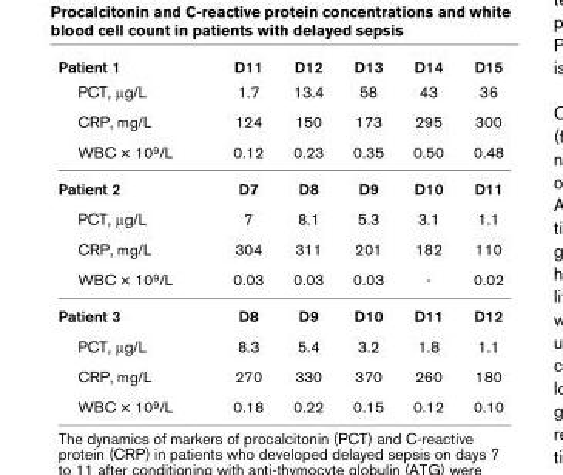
<table><thead><tr><td rowspan="4">Patient 1 PCT, μg/L CRP, mg/L WBC × 109/L</td><td rowspan="4">D11 1.7 124 0.12</td><td rowspan="4">D12 13.4 150 0.23</td><td rowspan="4">D13 58 173 0.35</td><td rowspan="4">D14 43 295 0.50</td><td rowspan="4">D15 36 300 0.48</td></tr><tr></tr><tr></tr><tr></tr></thead><tbody><tr><td>Patient 2</td><td>D7</td><td>D8</td><td>D9</td><td>D10</td><td>D11</td></tr><tr><td>PCT, μg/L</td><td>7</td><td>8.1</td><td>5.3</td><td>3.1</td><td>1.1</td></tr><tr><td>CRP, mg/L</td><td>304</td><td>311</td><td>201</td><td>182</td><td>110</td></tr><tr><td>WBC × 10<sup>9</sup>/L</td><td>0.03</td><td>0.03</td><td>0.03</td><td>-</td><td>0.02</td></tr><tr><td>Patient 3</td><td>D8</td><td>D9</td><td>D10</td><td>D11</td><td>D12</td></tr><tr><td>PCT, μg/L</td><td>8.3</td><td>5.4</td><td>3.2</td><td>1.8</td><td>1.1</td></tr><tr><td>CRP, mg/L</td><td>270</td><td>330</td><td>370</td><td>260</td><td>180</td></tr><tr><td>WBC × 10<sup>9</sup>/L</td><td>0.18</td><td>0.22</td><td>0.15</td><td>0.12</td><td>0.10</td></tr></tbody></table>